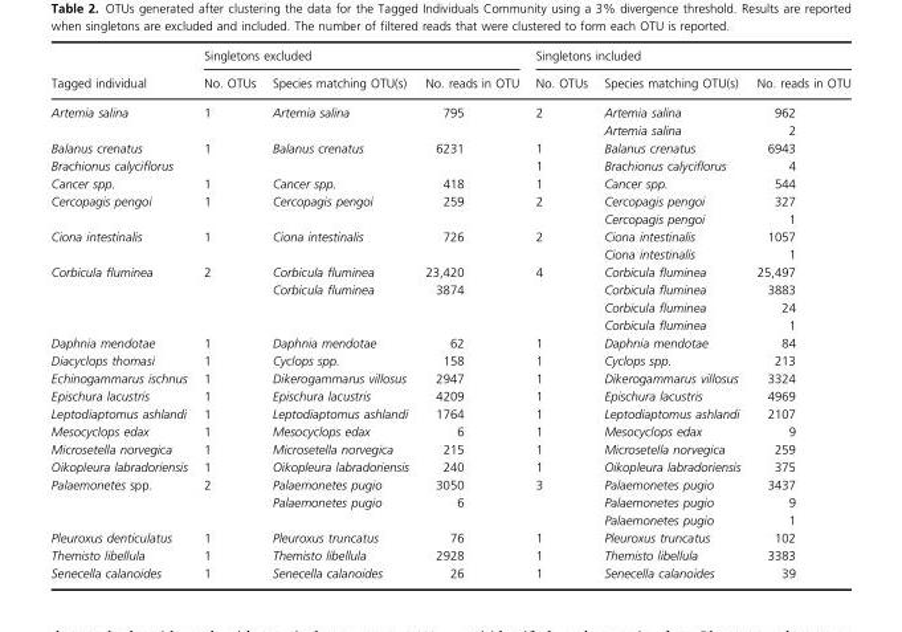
<table><thead><tr><td rowspan="2">Tagged individual</td><td colspan="3">Singletons excluded</td><td colspan="3">Singletons included</td></tr><tr><td>No. OTUs</td><td>Species matching OTU(s)</td><td>No. reads in OTU</td><td>No. OTUs</td><td>Species matching OTU(s)</td><td>No. reads in OTU</td></tr></thead><tbody><tr><td rowspan="2">Artemia salina</td><td>1</td><td>Artemia salina</td><td>795</td><td>2</td><td>Artemia salina</td><td>962</td></tr><tr><td></td><td></td><td></td><td></td><td>Artemia salina</td><td>2</td></tr><tr><td>Balanus crenatus</td><td>1</td><td>Balanus crenatus</td><td>6231</td><td>1</td><td>Balanus crenatus</td><td>6943</td></tr><tr><td>Brachionus calyciflorus</td><td></td><td></td><td></td><td>1</td><td>Brachionus calyciflorus</td><td>4</td></tr><tr><td>Cancer spp.</td><td>1</td><td>Cancer spp.</td><td>418</td><td>1</td><td>Cancer spp.</td><td>544</td></tr><tr><td rowspan="2">Cercopagis pengoi</td><td>1</td><td>Cercopagis pengoi</td><td>259</td><td>2</td><td>Cercopagis pengoi</td><td>327</td></tr><tr><td></td><td></td><td></td><td></td><td>Cercopagis pengoi</td><td>1</td></tr><tr><td rowspan="2">Ciona intestinalis</td><td>1</td><td>Ciona intestinalis</td><td>726</td><td>2</td><td>Ciona intestinalis</td><td>1057</td></tr><tr><td></td><td></td><td></td><td></td><td>Ciona intestinalis</td><td>1</td></tr><tr><td rowspan="4">Corbicula fluminea</td><td>2</td><td>Corbicula fluminea</td><td>23,420</td><td>4</td><td>Corbicula fluminea</td><td>25,497</td></tr><tr><td></td><td>Corbicula fluminea</td><td>3874</td><td></td><td>Corbicula fluminea</td><td>3883</td></tr><tr><td></td><td></td><td></td><td></td><td>Corbicula fluminea</td><td>24</td></tr><tr><td></td><td></td><td></td><td></td><td>Corbicula fluminea</td><td>1</td></tr><tr><td>Daphnia mendotae</td><td>1</td><td>Daphnia mendotae</td><td>62</td><td>1</td><td>Daphnia mendotae</td><td>84</td></tr><tr><td>Diacyclops thomasi</td><td>1</td><td>Cyclops spp.</td><td>158</td><td>1</td><td>Cyclops spp.</td><td>213</td></tr><tr><td>Echinogammarus ischnus</td><td>1</td><td>Dikerogammarus villosus</td><td>2947</td><td>1</td><td>Dikerogammarus villosus</td><td>3324</td></tr><tr><td>Epischura lacustris</td><td>1</td><td>Epischura lacustris</td><td>4209</td><td>1</td><td>Epischura lacustris</td><td>4969</td></tr><tr><td>Leptodiaptomus ashlandi</td><td>1</td><td>Leptodiaptomus ashlandi</td><td>1764</td><td>1</td><td>Leptodiaptomus ashlandi</td><td>2107</td></tr><tr><td>Mesocyclops edax</td><td>1</td><td>Mesocyclops edax</td><td>6</td><td>1</td><td>Mesocyclops edax</td><td>9</td></tr><tr><td>Microsetella norvegica</td><td>1</td><td>Microsetella norvegica</td><td>215</td><td>1</td><td>Microsetella norvegica</td><td>259</td></tr><tr><td>Oikopleura labradoriensis</td><td>1</td><td>Oikopleura labradoriensis</td><td>240</td><td>1</td><td>Oikopleura labradoriensis</td><td>375</td></tr><tr><td rowspan="3">Palaemonetes spp.</td><td>2</td><td>Palaemonetes pugio</td><td>3050</td><td>3</td><td>Palaemonetes pugio</td><td>3437</td></tr><tr><td></td><td>Palaemonetes pugio</td><td>6</td><td></td><td>Palaemonetes pugio</td><td>9</td></tr><tr><td></td><td></td><td></td><td></td><td>Palaemonetes pugio</td><td>1</td></tr><tr><td>Pleuroxus denticulatus</td><td>1</td><td>Pleuroxus truncatus</td><td>76</td><td>1</td><td>Pleuroxus truncatus</td><td>102</td></tr><tr><td>Themisto libellula</td><td>1</td><td>Themisto libellula</td><td>2928</td><td>1</td><td>Themisto libellula</td><td>3383</td></tr><tr><td>Senecella calanoides</td><td>1</td><td>Senecella calanoides</td><td>26</td><td>1</td><td>Senecella calanoides</td><td>39</td></tr></tbody></table>